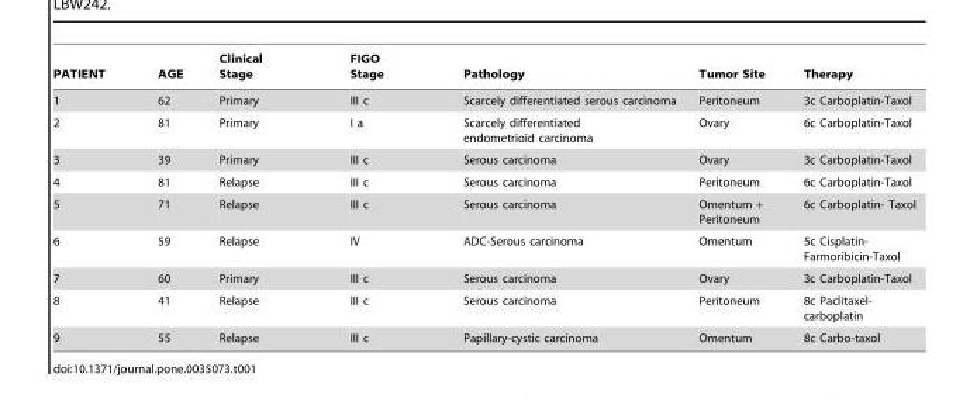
<table><thead><tr><td>PATIENT</td><td>AGE</td><td>Clinical Stage</td><td>FIGO Stage</td><td>Pathology</td><td>Tumor Site</td><td>Therapy</td></tr></thead><tbody><tr><td>1</td><td>62</td><td>Primary</td><td>III c</td><td>Scarcely differentiated serous carcinoma</td><td>Peritoneum</td><td>3c Carboplatin-Taxol</td></tr><tr><td>2</td><td>81</td><td>Primary</td><td>I a</td><td>Scarcely differentiated endometrioid carcinoma</td><td>Ovary</td><td>6c Carboplatin-Taxol</td></tr><tr><td>3</td><td>39</td><td>Primary</td><td>III c</td><td>Serous carcinoma</td><td>Ovary</td><td>3c Carboplatin-Taxol</td></tr><tr><td>4</td><td>81</td><td>Relapse</td><td>III c</td><td>Serous carcinoma</td><td>Peritoneum</td><td>6c Carboplatin-Taxol</td></tr><tr><td>5</td><td>71</td><td>Relapse</td><td>III c</td><td>Serous carcinoma</td><td>Omentum + Peritoneum</td><td>6c Carboplatin- Taxol</td></tr><tr><td>6</td><td>59</td><td>Relapse</td><td>IV</td><td>ADC-Serous carcinoma</td><td>Omentum</td><td>5c Cisplatin- Farmoribicin-Taxol</td></tr><tr><td>7</td><td>60</td><td>Primary</td><td>III c</td><td>Serous carcinoma</td><td>Ovary</td><td>3c Carboplatin-Taxol</td></tr><tr><td>8</td><td>41</td><td>Relapse</td><td>III c</td><td>Serous carcinoma</td><td>Peritoneum</td><td>8c Paclitaxel- carboplatin</td></tr><tr><td>9</td><td>55</td><td>Relapse</td><td>III c</td><td>Papillary-cystic carcinoma</td><td>Omentum</td><td>8c Carbo-taxol</td></tr></tbody></table>